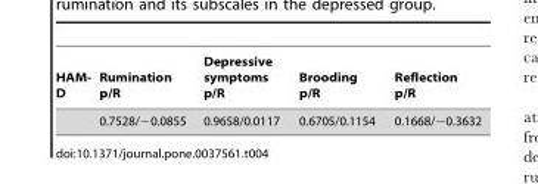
<table><thead><tr><td>HAM- D</td><td>Rumination p/R</td><td>Depressive symptoms p/R</td><td>Brooding p/R</td><td>Reflection p/R</td></tr></thead><tbody><tr><td></td><td>0.7528/−0.0855</td><td>0.9658/0.0117</td><td>0.6705/0.1154</td><td>0.1668/−0.3632</td></tr></tbody></table>